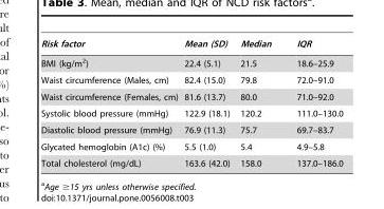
<table><thead><tr><td>Risk factor</td><td>Mean (SD)</td><td>Median</td><td>IQR</td></tr></thead><tbody><tr><td>BMI (kg/m<sup>2</sup>)</td><td>22.4 (5.1)</td><td>21.5</td><td>18.6–25.9</td></tr><tr><td>Waist circumference (Males, cm)</td><td>82.4 (15.0)</td><td>79.8</td><td>72.0–91.0</td></tr><tr><td>Waist circumference (Females, cm)</td><td>81.6 (13.7)</td><td>80.0</td><td>71.0–92.0</td></tr><tr><td>Systolic blood pressure (mmHg)</td><td>122.9 (18.1)</td><td>120.2</td><td>111.0–130.0</td></tr><tr><td>Diastolic blood pressure (mmHg)</td><td>76.9 (11.3)</td><td>75.7</td><td>69.7–83.7</td></tr><tr><td>Glycated hemoglobin (A1c) (%)</td><td>5.5 (1.0)</td><td>5.4</td><td>4.9–5.8</td></tr><tr><td>Total cholesterol (mg/dL)</td><td>163.6 (42.0)</td><td>158.0</td><td>137.0–186.0</td></tr></tbody></table>